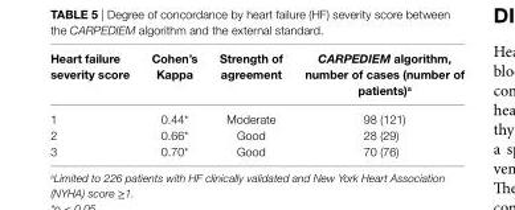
<table><thead><tr><td>heart failure severity score</td><td>cohen’s Kappa</td><td>strength of agreement</td><td>CARPEDIEM algorithm, number of cases (number of patients)<sup>a</sup></td></tr></thead><tbody><tr><td>1</td><td>0.44*</td><td>Moderate</td><td>98 (121)</td></tr><tr><td>2</td><td>0.66*</td><td>Good</td><td>28 (29)</td></tr><tr><td>3</td><td>0.70*</td><td>Good</td><td>70 (76)</td></tr></tbody></table>